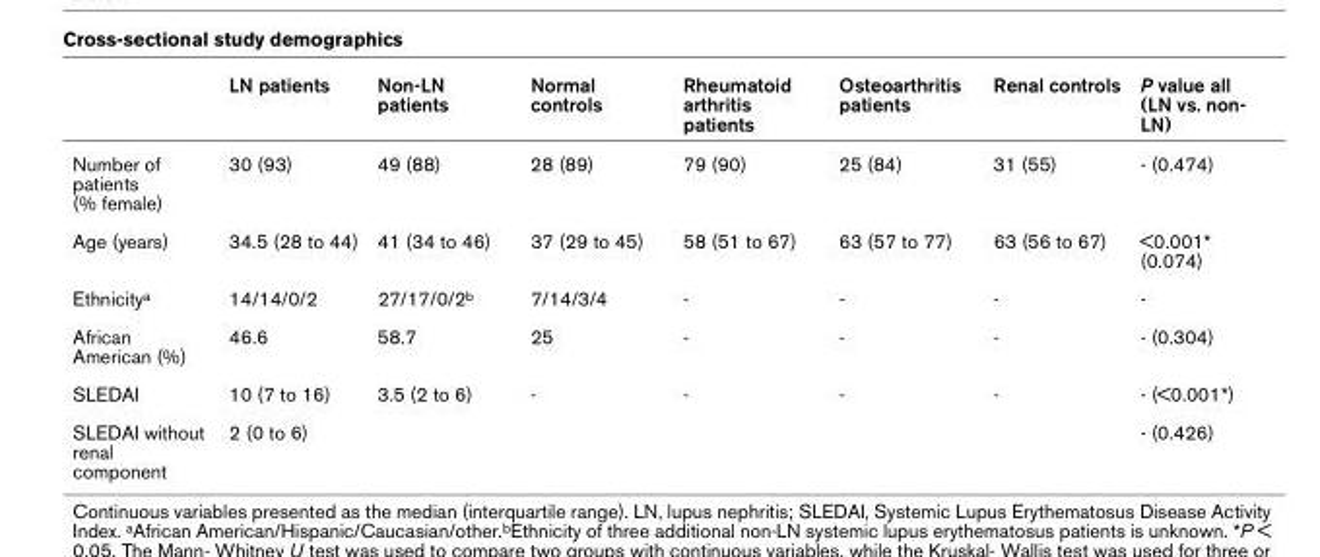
<table><thead><tr><td></td><td>LN patients</td><td>Non-LN patients</td><td>Normal controls</td><td>Rheumatoid arthritis patients</td><td>Osteoarthritis patients</td><td>Renal controls</td><td>P value all (LN vs. non- LN)</td></tr></thead><tbody><tr><td>Number of patients (% female)</td><td>30 (93)</td><td>49 (88)</td><td>28 (89)</td><td>79 (90)</td><td>25 (84)</td><td>31 (55)</td><td>- (0.474)</td></tr><tr><td>Age (years)</td><td>34.5 (28 to 44)</td><td>41 (34 to 46)</td><td>37 (29 to 45)</td><td>58 (51 to 67)</td><td>63 (57 to 77)</td><td>63 (56 to 67)</td><td>&lt;0.001* (0.074)</td></tr><tr><td>Ethnicity<sup>a</sup></td><td>14/14/0/2</td><td>27/17/0/2<sup>b</sup></td><td>7/14/3/4</td><td>-</td><td>-</td><td>-</td><td>-</td></tr><tr><td>African American (%)</td><td>46.6</td><td>58.7</td><td>25</td><td>-</td><td>-</td><td>-</td><td>- (0.304)</td></tr><tr><td>SLEDAI</td><td>10 (7 to 16)</td><td>3.5 (2 to 6)</td><td>-</td><td>-</td><td>-</td><td>-</td><td>- (&lt;0.001*)</td></tr><tr><td>SLEDAI without renal component</td><td>2 (0 to 6)</td><td></td><td></td><td></td><td></td><td></td><td>- (0.426)</td></tr></tbody></table>